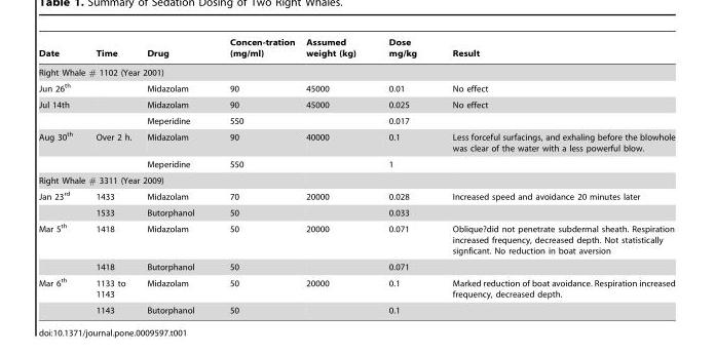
<table><thead><tr><td>Date</td><td>Time</td><td>Drug</td><td>Concen-tration (mg/ml)</td><td>Assumed weight (kg)</td><td>Dose mg/kg</td><td>Result</td></tr></thead><tbody><tr><td colspan="7">Right Whale # 1102 (Year 2001)</td></tr><tr><td>Jun 26<sup>th</sup></td><td></td><td>Midazolam</td><td>90</td><td>45000</td><td>0.01</td><td>No effect</td></tr><tr><td rowspan="2">Jul 14th</td><td></td><td>Midazolam</td><td>90</td><td>45000</td><td>0.025</td><td>No effect</td></tr><tr><td></td><td>Meperidine</td><td>550</td><td></td><td>0.017</td><td></td></tr><tr><td rowspan="2">Aug 30<sup>th</sup></td><td>Over 2 h.</td><td>Midazolam</td><td>90</td><td>40000</td><td>0.1</td><td>Less forceful surfacings, and exhaling before the blowhole was clear of the water with a less powerful blow.</td></tr><tr><td></td><td>Meperidine</td><td>550</td><td></td><td>1</td><td></td></tr><tr><td colspan="7">Right Whale # 3311 (Year 2009)</td></tr><tr><td rowspan="2">Jan 23<sup>rd</sup></td><td>1433</td><td>Midazolam</td><td>70</td><td>20000</td><td>0.028</td><td>Increased speed and avoidance 20 minutes later</td></tr><tr><td>1533</td><td>Butorphanol</td><td>50</td><td></td><td>0.033</td><td></td></tr><tr><td rowspan="2">Mar 5<sup>th</sup></td><td>1418</td><td>Midazolam</td><td>50</td><td>20000</td><td>0.071</td><td>Oblique?did not penetrate subdermal sheath. Respiration increased frequency, decreased depth. Not statistically signficant. No reduction in boat aversion</td></tr><tr><td>1418</td><td>Butorphanol</td><td>50</td><td></td><td>0.071</td><td></td></tr><tr><td rowspan="2">Mar 6<sup>th</sup></td><td>1133 to 1143</td><td>Midazolam</td><td>50</td><td>20000</td><td>0.1</td><td>Marked reduction of boat avoidance. Respiration increased frequency, decreased depth.</td></tr><tr><td>1143</td><td>Butorphanol</td><td>50</td><td></td><td>0.1</td><td></td></tr></tbody></table>